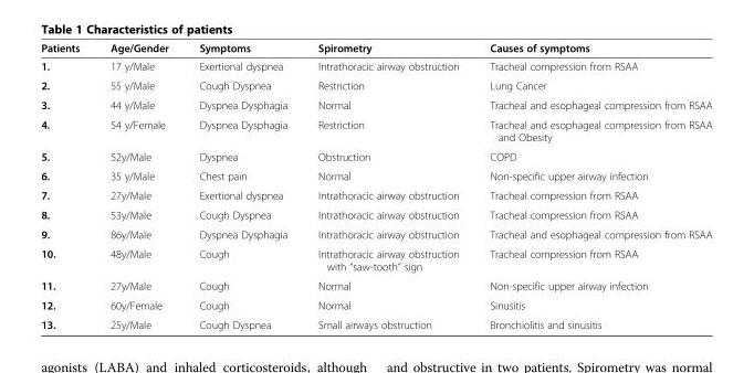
<table><thead><tr><td>Patients</td><td>Age/Gender</td><td>Symptoms</td><td>Spirometry</td><td>Causes of symptoms</td></tr></thead><tbody><tr><td>1.</td><td>17 y/Male</td><td>Exertional dyspnea</td><td>Intrathoracic airway obstruction</td><td>Tracheal compression from RSAA</td></tr><tr><td>2.</td><td>55 y/Male</td><td>Cough Dyspnea</td><td>Restriction</td><td>Lung Cancer</td></tr><tr><td>3.</td><td>44 y/Male</td><td>Dyspnea Dysphagia</td><td>Normal</td><td>Tracheal and esophageal compression from RSAA</td></tr><tr><td>4.</td><td>54 y/Female</td><td>Dyspnea Dysphagia</td><td>Restriction</td><td>Tracheal and esophageal compression from RSAA and Obesity</td></tr><tr><td>5.</td><td>52y/Male</td><td>Dyspnea</td><td>Obstruction</td><td>COPD</td></tr><tr><td>6.</td><td>35 y/Male</td><td>Chest pain</td><td>Normal</td><td>Non-specific upper airway infection</td></tr><tr><td>7.</td><td>27y/Male</td><td>Exertional dyspnea</td><td>Intrathoracic airway obstruction</td><td>Tracheal compression from RSAA</td></tr><tr><td>8.</td><td>53y/Male</td><td>Cough Dyspnea</td><td>Intrathoracic airway obstruction</td><td>Tracheal compression from RSAA</td></tr><tr><td>9.</td><td>86y/Male</td><td>Dyspnea Dysphagia</td><td>Intrathoracic airway obstruction</td><td>Tracheal and esophageal compression from RSAA</td></tr><tr><td>10.</td><td>48y/Male</td><td>Cough</td><td>Intrathoracic airway obstruction with “saw-tooth” sign</td><td>Tracheal compression from RSAA</td></tr><tr><td>11.</td><td>27y/Male</td><td>Cough</td><td>Normal</td><td>Non-specific upper airway infection</td></tr><tr><td>12.</td><td>60y/Female</td><td>Cough</td><td>Normal</td><td>Sinusitis</td></tr><tr><td>13.</td><td>25y/Male</td><td>Cough Dyspnea</td><td>Small airways obstruction</td><td>Bronchiolitis and sinusitis</td></tr></tbody></table>